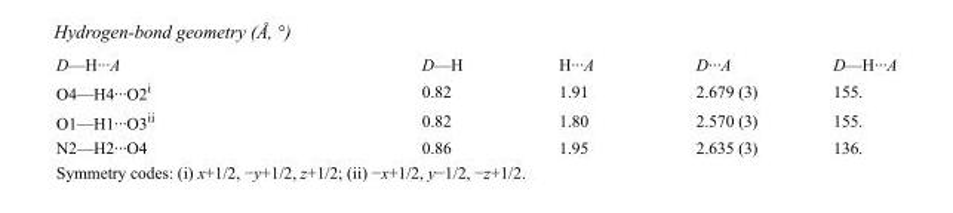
<table><tbody><tr><td>D—H···A</td><td>D—H</td><td>H···A</td><td>D···A</td><td>D—H···A</td></tr><tr><td>O4—H4···O2<sup>i</sup></td><td>0.82</td><td>1.91</td><td>2.679 (3)</td><td>155.</td></tr><tr><td>O1—H1···O3<sup>ii</sup></td><td>0.82</td><td>1.80</td><td>2.570 (3)</td><td>155.</td></tr><tr><td>N2—H2···O4</td><td>0.86</td><td>1.95</td><td>2.635 (3)</td><td>136.</td></tr></tbody></table>